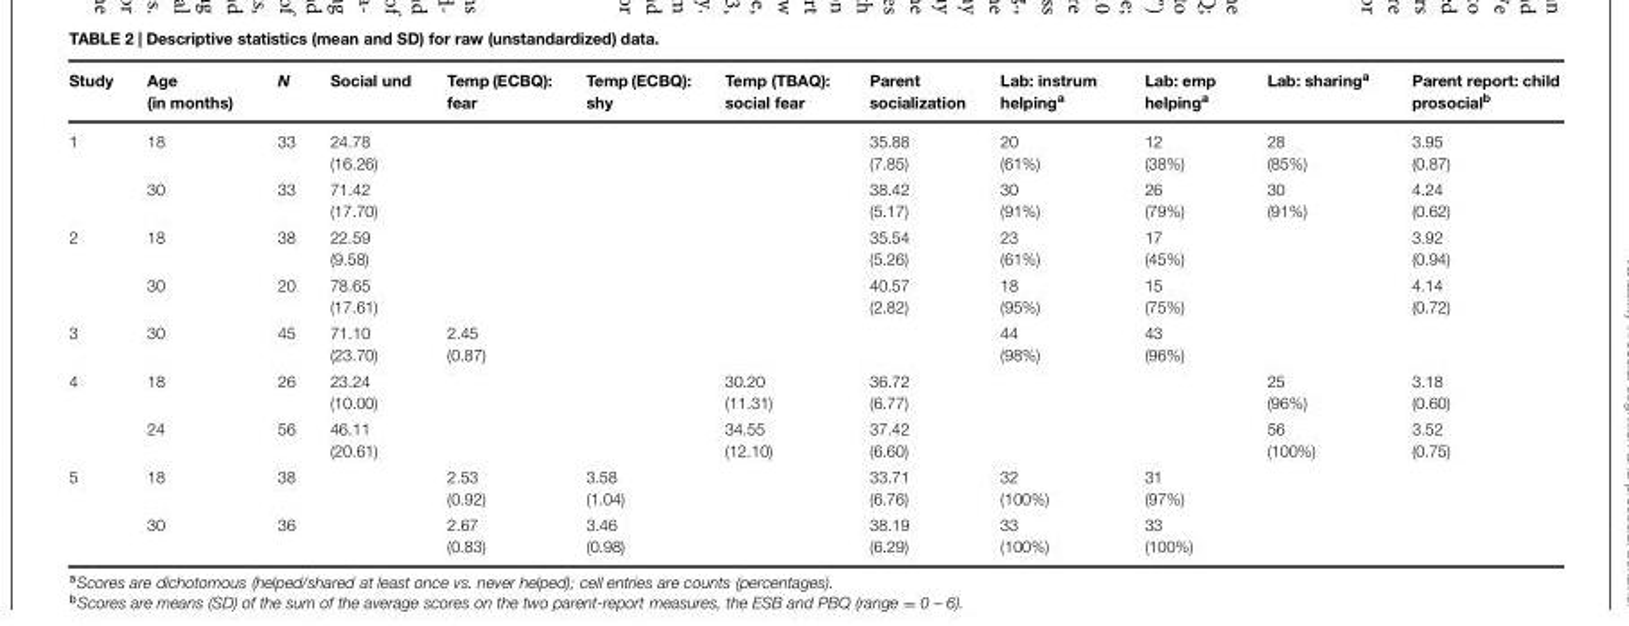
<table><thead><tr><td>Study</td><td>Age (in months)</td><td>N</td><td>Social und</td><td>Temp (ECBQ): fear</td><td>Temp (ECBQ): shy</td><td>Temp (TBAQ): social fear</td><td>Parent socialization</td><td>Lab: instrum helping<sup>a</sup></td><td>Lab: emp helping<sup>a</sup></td><td>Lab: sharing<sup>a</sup></td><td>Parent report: child prosocial<sup>b</sup></td></tr></thead><tbody><tr><td rowspan="2">1</td><td>18</td><td>33</td><td>24.78 (16.26)</td><td></td><td></td><td></td><td>35.88 (7.85)</td><td>20 (61%)</td><td>12 (38%)</td><td>28 (85%)</td><td>3.95 (0.87)</td></tr><tr><td>30</td><td>33</td><td>71.42 (17.70)</td><td></td><td></td><td></td><td>38.42 (5.17)</td><td>30 (91%)</td><td>26 (79%)</td><td>30 (91%)</td><td>4.24 (0.62)</td></tr><tr><td rowspan="2">2</td><td>18</td><td>38</td><td>22.59 (9.58)</td><td></td><td></td><td></td><td>35.54 (5.26)</td><td>23 (61%)</td><td>17 (45%)</td><td></td><td>3.92 (0.94)</td></tr><tr><td>30</td><td>20</td><td>78.65 (17.61)</td><td></td><td></td><td></td><td>40.57 (2.82)</td><td>18 (95%)</td><td>15 (75%)</td><td></td><td>4.14 (0.72)</td></tr><tr><td>3</td><td>30</td><td>45</td><td>71.10 (23.70)</td><td>2.45 (0.87)</td><td></td><td></td><td></td><td>44 (98%)</td><td>43 (96%)</td><td></td><td></td></tr><tr><td rowspan="2">4</td><td>18</td><td>26</td><td>23.24 (10.00)</td><td></td><td></td><td>30.20 (11.31)</td><td>36.72 (6.77)</td><td></td><td></td><td>25 (96%)</td><td>3.18 (0.60)</td></tr><tr><td>24</td><td>56</td><td>46.11 (20.61)</td><td></td><td></td><td>34.55 (12.10)</td><td>37.42 (6.60)</td><td></td><td></td><td>56 (100%)</td><td>3.52 (0.75)</td></tr><tr><td rowspan="2">5</td><td>18</td><td>38</td><td></td><td>2.53 (0.92)</td><td>3.58 (1.04)</td><td></td><td>33.71 (6.76)</td><td>32 (100%)</td><td>31 (97%)</td><td></td><td></td></tr><tr><td>30</td><td>36</td><td></td><td>2.67 (0.83)</td><td>3.46 (0.98)</td><td></td><td>38.19 (6.29)</td><td>33 (100%)</td><td>33 (100%)</td><td></td><td></td></tr></tbody></table>